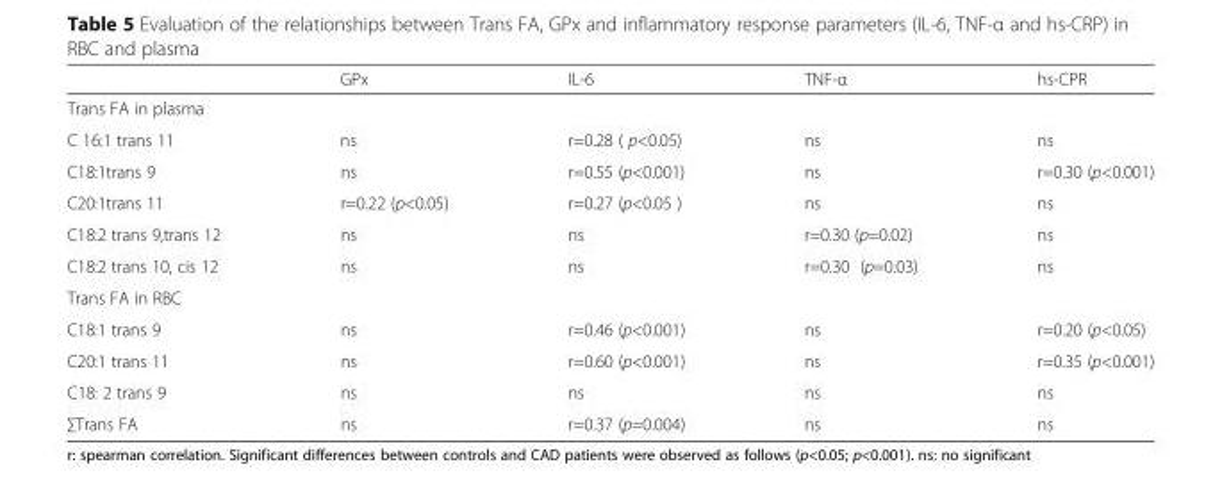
<table><thead><tr><td></td><td>GPx</td><td>IL-6</td><td>TNF-α</td><td>hs-CPR</td></tr></thead><tbody><tr><td colspan="5">Trans FA in plasma</td></tr><tr><td>C 16:1 trans 11</td><td>ns</td><td>r=0.28 ( p&lt;0.05)</td><td>ns</td><td>ns</td></tr><tr><td>C18:1trans 9</td><td>ns</td><td>r=0.55 (p&lt;0.001)</td><td>ns</td><td>r=0.30 (p&lt;0.001)</td></tr><tr><td>C20:1trans 11</td><td>r=0.22 (p&lt;0.05)</td><td>r=0.27 (p&lt;0.05 )</td><td>ns</td><td>ns</td></tr><tr><td>C18:2 trans 9,trans 12</td><td>ns</td><td>ns</td><td>r=0.30 (p=0.02)</td><td>ns</td></tr><tr><td>C18:2 trans 10, cis 12</td><td>ns</td><td>ns</td><td>r=0.30 (p=0.03)</td><td>ns</td></tr><tr><td colspan="5">Trans FA in RBC</td></tr><tr><td>C18:1 trans 9</td><td>ns</td><td>r=0.46 (p&lt;0.001)</td><td>ns</td><td>r=0.20 (p&lt;0.05)</td></tr><tr><td>C20:1 trans 11</td><td>ns</td><td>r=0.60 (p&lt;0.001)</td><td>ns</td><td>r=0.35 (p&lt;0.001)</td></tr><tr><td>C18: 2 trans 9</td><td>ns</td><td>ns</td><td>ns</td><td>ns</td></tr><tr><td>∑Trans FA</td><td>ns</td><td>r=0.37 (p=0.004)</td><td>ns</td><td>ns</td></tr></tbody></table>